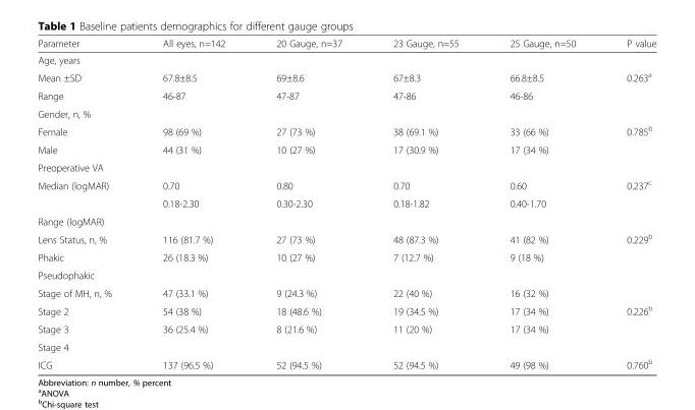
<table><thead><tr><td>Parameter</td><td>All eyes, n=142</td><td>20 Gauge, n=37</td><td>23 Gauge, n=55</td><td>25 Gauge, n=50</td><td>P value</td></tr></thead><tbody><tr><td colspan="6">Age, years</td></tr><tr><td>Mean ±SD</td><td>67.8±8.5</td><td>69±8.6</td><td>67±8.3</td><td>66.8±8.5</td><td>0.263<sup>a</sup></td></tr><tr><td>Range</td><td>46-87</td><td>47-87</td><td>47-86</td><td>46-86</td><td></td></tr><tr><td colspan="6">Gender, n, %</td></tr><tr><td>Female</td><td>98 (69 %)</td><td>27 (73 %)</td><td>38 (69.1 %)</td><td>33 (66 %)</td><td>0.785<sup>b</sup></td></tr><tr><td>Male</td><td>44 (31 %)</td><td>10 (27 %)</td><td>17 (30.9 %)</td><td>17 (34 %)</td><td></td></tr><tr><td colspan="6">Preoperative VA</td></tr><tr><td rowspan="2">Median (logMAR)</td><td>0.70</td><td>0.80</td><td>0.70</td><td>0.60</td><td>0.237<sup>c</sup></td></tr><tr><td>0.18-2.30</td><td>0.30-2.30</td><td>0.18-1.82</td><td>0.40-1.70</td><td></td></tr><tr><td colspan="6">Range (logMAR)</td></tr><tr><td>Lens Status, n, %</td><td>116 (81.7 %)</td><td>27 (73 %)</td><td>48 (87.3 %)</td><td>41 (82 %)</td><td>0.229<sup>b</sup></td></tr><tr><td>Phakic</td><td>26 (18.3 %)</td><td>10 (27 %)</td><td>7 (12.7 %)</td><td>9 (18 %)</td><td></td></tr><tr><td colspan="6">Pseudophakic</td></tr><tr><td>Stage of MH, n, %</td><td>47 (33.1 %)</td><td>9 (24.3 %)</td><td>22 (40 %)</td><td>16 (32 %)</td><td></td></tr><tr><td>Stage 2</td><td>54 (38 %)</td><td>18 (48.6 %)</td><td>19 (34.5 %)</td><td>17 (34 %)</td><td>0.226<sup>b</sup></td></tr><tr><td>Stage 3</td><td>36 (25.4 %)</td><td>8 (21.6 %)</td><td>11 (20 %)</td><td>17 (34 %)</td><td></td></tr><tr><td colspan="6">Stage 4</td></tr><tr><td>ICG</td><td>137 (96.5 %)</td><td>52 (94.5 %)</td><td>52 (94.5 %)</td><td>49 (98 %)</td><td>0.760<sup>b</sup></td></tr></tbody></table>